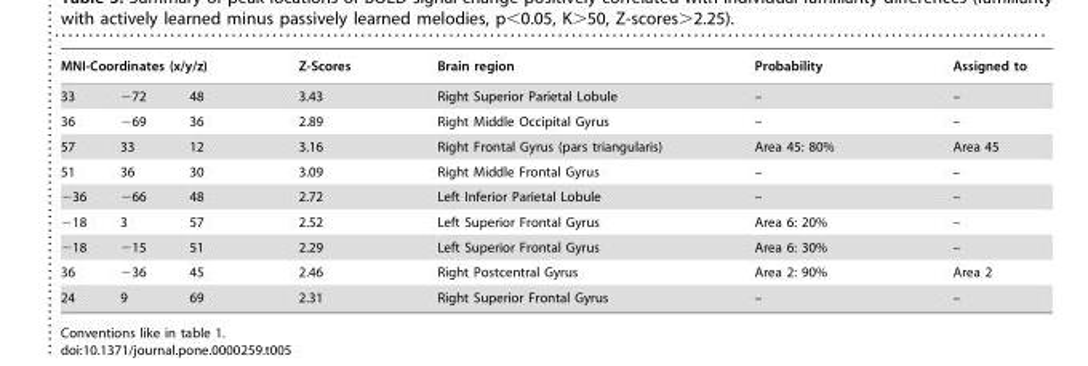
<table><thead><tr><td colspan="3">MNI-Coordinates (x/y/z)</td><td rowspan="2">Z-Scores 3.43</td><td rowspan="2">Brain region Right Superior Parietal Lobule</td><td rowspan="2">Probability –</td><td rowspan="2">Assigned to –</td></tr><tr><td>33</td><td>−72</td><td>48</td></tr></thead><tbody><tr><td>36</td><td>−69</td><td>36</td><td>2.89</td><td>Right Middle Occipital Gyrus</td><td>–</td><td>–</td></tr><tr><td>57</td><td>33</td><td>12</td><td>3.16</td><td>Right Frontal Gyrus (pars triangularis)</td><td>Area 45: 80%</td><td>Area 45</td></tr><tr><td>51</td><td>36</td><td>30</td><td>3.09</td><td>Right Middle Frontal Gyrus</td><td>–</td><td>–</td></tr><tr><td>−36</td><td>−66</td><td>48</td><td>2.72</td><td>Left Inferior Parietal Lobule</td><td>–</td><td>–</td></tr><tr><td>−18</td><td>3</td><td>57</td><td>2.52</td><td>Left Superior Frontal Gyrus</td><td>Area 6: 20%</td><td>–</td></tr><tr><td>−18</td><td>−15</td><td>51</td><td>2.29</td><td>Left Superior Frontal Gyrus</td><td>Area 6: 30%</td><td>–</td></tr><tr><td>36</td><td>−36</td><td>45</td><td>2.46</td><td>Right Postcentral Gyrus</td><td>Area 2: 90%</td><td>Area 2</td></tr><tr><td>24</td><td>9</td><td>69</td><td>2.31</td><td>Right Superior Frontal Gyrus</td><td>–</td><td>–</td></tr></tbody></table>